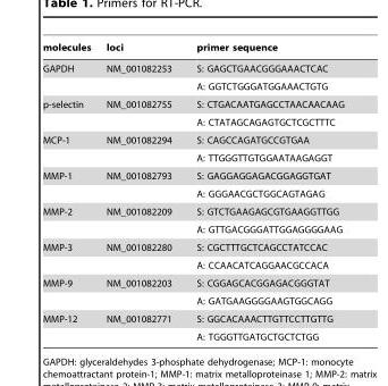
<table><thead><tr><td>molecules</td><td>loci</td><td>primer sequence</td></tr></thead><tbody><tr><td rowspan="2">GAPDH</td><td>NM_001082253</td><td>S: GAGCTGAACGGGAAACTCAC</td></tr><tr><td></td><td>A: GGTCTGGGATGGAAACTGTG</td></tr><tr><td rowspan="2">p-selectin</td><td>NM_001082755</td><td>S: CTGACAATGAGCCTAACAACAAG</td></tr><tr><td></td><td>A: CTATAGCAGAGTGCTCGCTTTC</td></tr><tr><td rowspan="2">MCP-1</td><td>NM_001082294</td><td>S: CAGCCAGATGCCGTGAA</td></tr><tr><td></td><td>A: TTGGGTTGTGGAATAAGAGGT</td></tr><tr><td rowspan="2">MMP-1</td><td>NM_001082793</td><td>S: GAGGAGGAGACGGAGGTGAT</td></tr><tr><td></td><td>A: GGGAACGCTGGCAGTAGAG</td></tr><tr><td rowspan="2">MMP-2</td><td>NM_001082209</td><td>S: GTCTGAAGAGCGTGAAGGTTGG</td></tr><tr><td></td><td>A: GTTGACGGGATTGGAGGGGAAG</td></tr><tr><td rowspan="2">MMP-3</td><td>NM_001082280</td><td>S: CGCTTTGCTCAGCCTATCCAC</td></tr><tr><td></td><td>A: CCAACATCAGGAACGCCACA</td></tr><tr><td rowspan="2">MMP-9</td><td>NM_001082203</td><td>S: CGGAGCACGGAGACGGGTAT</td></tr><tr><td></td><td>A: GATGAAGGGGAAGTGGCAGG</td></tr><tr><td rowspan="2">MMP-12</td><td>NM_001082771</td><td>S: GGCACAAACTTGTTCCTTGTTG</td></tr><tr><td></td><td>A: TGGGTTGATGCTGCTCTGG</td></tr></tbody></table>